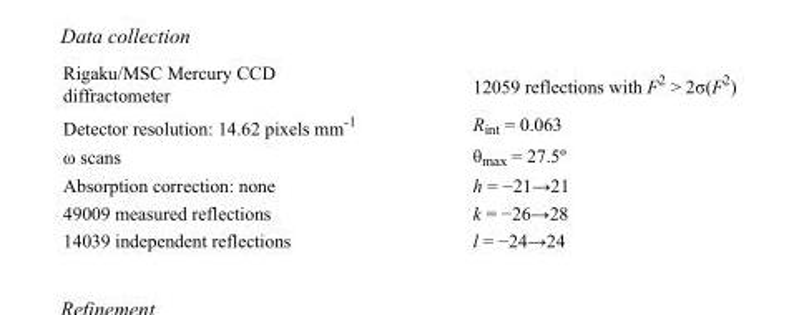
<table><tbody><tr><td>Rigaku/MSC Mercury CCD diffractometer</td><td>12059 reflections with F<sup>2</sup> &gt; 2σ(F<sup>2</sup>)</td></tr><tr><td>Detector resolution: 14.62 pixels mm<sup>-1</sup></td><td>R<sub>int</sub> = 0.063</td></tr><tr><td>ω scans</td><td>θ<sub>max</sub> = 27.5º</td></tr><tr><td>Absorption correction: none</td><td>h = −21→21</td></tr><tr><td>49009 measured reflections</td><td>k = −26→28</td></tr><tr><td>14039 independent reflections</td><td>l = −24→24</td></tr></tbody></table>